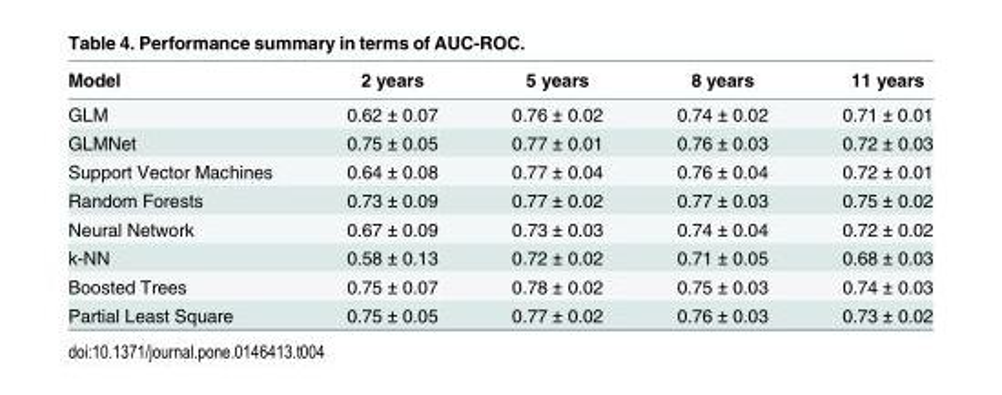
<table><thead><tr><td>Model</td><td>2 years</td><td>5 years</td><td>8 years</td><td>11 years</td></tr></thead><tbody><tr><td>GLM</td><td>0.62 ± 0.07</td><td>0.76 ± 0.02</td><td>0.74 ± 0.02</td><td>0.71 ± 0.01</td></tr><tr><td>GLMNet</td><td>0.75 ± 0.05</td><td>0.77 ± 0.01</td><td>0.76 ± 0.03</td><td>0.72 ± 0.03</td></tr><tr><td>Support Vector Machines</td><td>0.64 ± 0.08</td><td>0.77 ± 0.04</td><td>0.76 ± 0.04</td><td>0.72 ± 0.01</td></tr><tr><td>Random Forests</td><td>0.73 ± 0.09</td><td>0.77 ± 0.02</td><td>0.77 ± 0.03</td><td>0.75 ± 0.02</td></tr><tr><td>Neural Network</td><td>0.67 ± 0.09</td><td>0.73 ± 0.03</td><td>0.74 ± 0.04</td><td>0.72 ± 0.02</td></tr><tr><td>k-NN</td><td>0.58 ± 0.13</td><td>0.72 ± 0.02</td><td>0.71 ± 0.05</td><td>0.68 ± 0.03</td></tr><tr><td>Boosted Trees</td><td>0.75 ± 0.07</td><td>0.78 ± 0.02</td><td>0.75 ± 0.03</td><td>0.74 ± 0.03</td></tr><tr><td>Partial Least Square</td><td>0.75 ± 0.05</td><td>0.77 ± 0.02</td><td>0.76 ± 0.03</td><td>0.73 ± 0.02</td></tr></tbody></table>